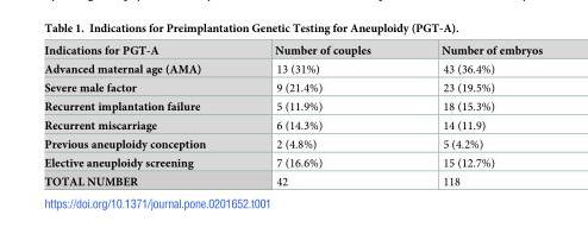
<table><thead><tr><td>Indications for PGT-A</td><td>Number of couples</td><td>Number of embryos</td></tr></thead><tbody><tr><td>Advanced maternal age (AMA)</td><td>13 (31%)</td><td>43 (36.4%)</td></tr><tr><td>Severe male factor</td><td>9 (21.4%)</td><td>23 (19.5%)</td></tr><tr><td>Recurrent implantation failure</td><td>5 (11.9%)</td><td>18 (15.3%)</td></tr><tr><td>Recurrent miscarriage</td><td>6 (14.3%)</td><td>14 (11.9)</td></tr><tr><td>Previous aneuploidy conception</td><td>2 (4.8%)</td><td>5 (4.2%)</td></tr><tr><td>Elective aneuploidy screening</td><td>7 (16.6%)</td><td>15 (12.7%)</td></tr><tr><td>TOTAL NUMBER</td><td>42</td><td>118</td></tr></tbody></table>